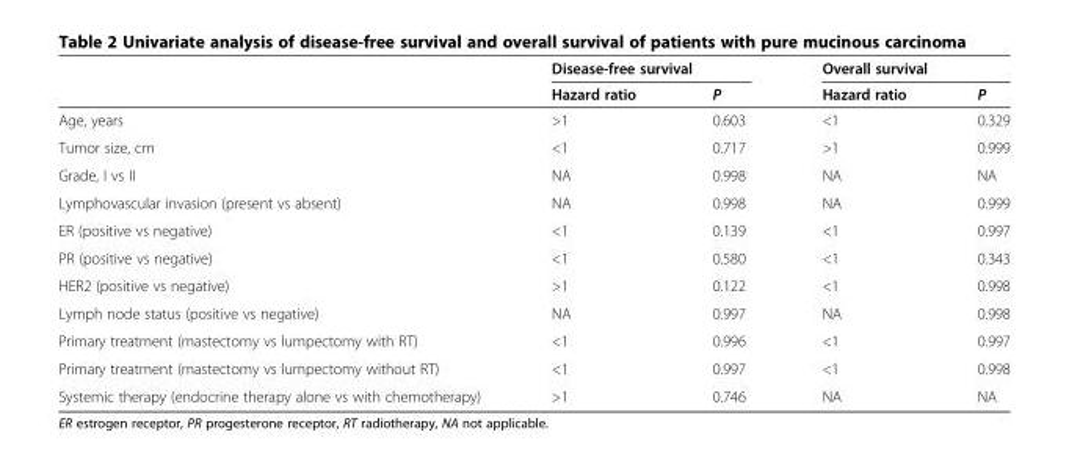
<table><thead><tr><td rowspan="2"></td><td colspan="2">Disease-free survival</td><td colspan="2">Overall survival</td></tr><tr><td>Hazard ratio</td><td>P</td><td>Hazard ratio</td><td>P</td></tr></thead><tbody><tr><td>Age, years</td><td>&gt;1</td><td>0.603</td><td>&lt;1</td><td>0.329</td></tr><tr><td>Tumor size, cm</td><td>&lt;1</td><td>0.717</td><td>&gt;1</td><td>0.999</td></tr><tr><td>Grade, I vs II</td><td>NA</td><td>0.998</td><td>NA</td><td>NA</td></tr><tr><td>Lymphovascular invasion (present vs absent)</td><td>NA</td><td>0.998</td><td>NA</td><td>0.999</td></tr><tr><td>ER (positive vs negative)</td><td>&lt;1</td><td>0.139</td><td>&lt;1</td><td>0.997</td></tr><tr><td>PR (positive vs negative)</td><td>&lt;1</td><td>0.580</td><td>&lt;1</td><td>0.343</td></tr><tr><td>HER2 (positive vs negative)</td><td>&gt;1</td><td>0.122</td><td>&lt;1</td><td>0.998</td></tr><tr><td>Lymph node status (positive vs negative)</td><td>NA</td><td>0.997</td><td>NA</td><td>0.998</td></tr><tr><td>Primary treatment (mastectomy vs lumpectomy with RT)</td><td>&lt;1</td><td>0.996</td><td>&lt;1</td><td>0.997</td></tr><tr><td>Primary treatment (mastectomy vs lumpectomy without RT)</td><td>&lt;1</td><td>0.997</td><td>&lt;1</td><td>0.998</td></tr><tr><td>Systemic therapy (endocrine therapy alone vs with chemotherapy)</td><td>&gt;1</td><td>0.746</td><td>NA</td><td>NA</td></tr></tbody></table>